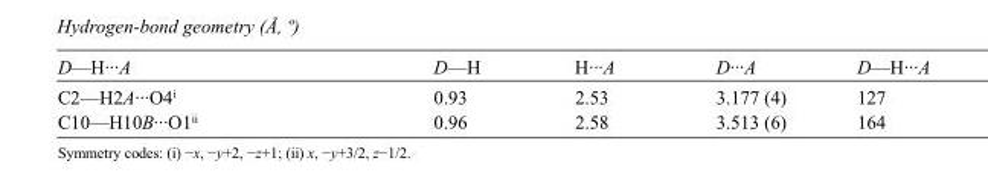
<table><tbody><tr><td>D—H···A</td><td>D—H</td><td>H···A</td><td>D···A</td><td>D—H···A</td></tr><tr><td>C2—H2A···O4<sup>i</sup></td><td>0.93</td><td>2.53</td><td>3.177 (4)</td><td>127</td></tr><tr><td>C10—H10B···O1<sup>ii</sup></td><td>0.96</td><td>2.58</td><td>3.513 (6)</td><td>164</td></tr></tbody></table>